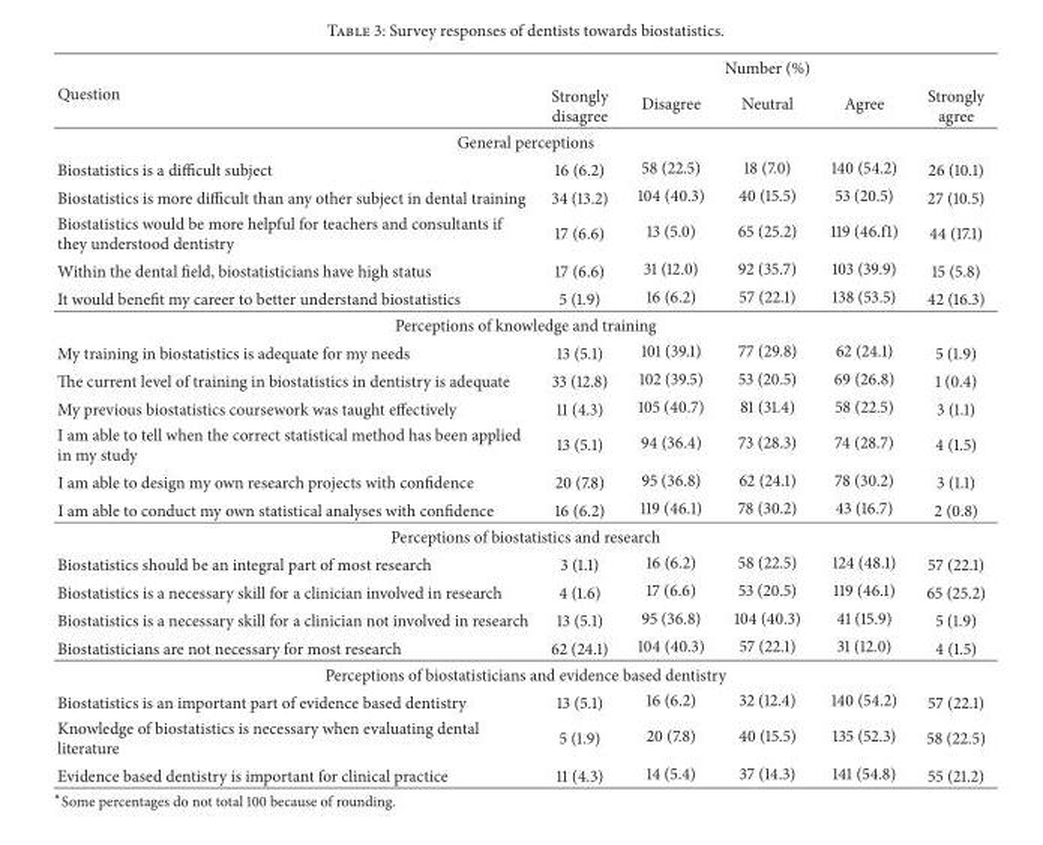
<table><thead><tr><td rowspan="2">Question</td><td rowspan="2">Strongly disagree</td><td rowspan="2">Disagree</td><td rowspan="2">Number (%) Neutral</td><td rowspan="2">Agree</td><td rowspan="2">Strongly agree</td></tr><tr></tr></thead><tbody><tr><td colspan="6">General perceptions</td></tr><tr><td>Biostatistics is a difficult subject</td><td>16 (6.2)</td><td>58 (22.5)</td><td>18 (7.0)</td><td>140 (54.2)</td><td>26 (10.1)</td></tr><tr><td>Biostatistics is more difficult than any other subject in dental training</td><td>34 (13.2)</td><td>104 (40.3)</td><td>40 (15.5)</td><td>53 (20.5)</td><td>27 (10.5)</td></tr><tr><td>Biostatistics would be more helpful for teachers and consultants if they understood dentistry</td><td>17 (6.6)</td><td>13 (5.0)</td><td>65 (25.2)</td><td>119 (46.f1)</td><td>44 (17.1)</td></tr><tr><td>Within the dental field, biostatisticians have high status</td><td>17 (6.6)</td><td>31 (12.0)</td><td>92 (35.7)</td><td>103 (39.9)</td><td>15 (5.8)</td></tr><tr><td>It would benefit my career to better understand biostatistics</td><td>5 (1.9)</td><td>16 (6.2)</td><td>57 (22.1)</td><td>138 (53.5)</td><td>42 (16.3)</td></tr><tr><td colspan="6">Perceptions of knowledge and training</td></tr><tr><td>My training in biostatistics is adequate for my needs</td><td>13 (5.1)</td><td>101 (39.1)</td><td>77 (29.8)</td><td>62 (24.1)</td><td>5 (1.9)</td></tr><tr><td>The current level of training in biostatistics in dentistry is adequate</td><td>33 (12.8)</td><td>102 (39.5)</td><td>53 (20.5)</td><td>69 (26.8)</td><td>1 (0.4)</td></tr><tr><td>My previous biostatistics coursework was taught effectively</td><td>11 (4.3)</td><td>105 (40.7)</td><td>81 (31.4)</td><td>58 (22.5)</td><td>3 (1.1)</td></tr><tr><td>I am able to tell when the correct statistical method has been applied in my study</td><td>13 (5.1)</td><td>94 (36.4)</td><td>73 (28.3)</td><td>74 (28.7)</td><td>4 (1.5)</td></tr><tr><td>I am able to design my own research projects with confidence</td><td>20 (7.8)</td><td>95 (36.8)</td><td>62 (24.1)</td><td>78 (30.2)</td><td>3 (1.1)</td></tr><tr><td>I am able to conduct my own statistical analyses with confidence</td><td>16 (6.2)</td><td>119 (46.1)</td><td>78 (30.2)</td><td>43 (16.7)</td><td>2 (0.8)</td></tr><tr><td colspan="6">Perceptions of biostatistics and research</td></tr><tr><td>Biostatistics should be an integral part of most research</td><td>3 (1.1)</td><td>16 (6.2)</td><td>58 (22.5)</td><td>124 (48.1)</td><td>57 (22.1)</td></tr><tr><td>Biostatistics is a necessary skill for a clinician involved in research</td><td>4 (1.6)</td><td>17 (6.6)</td><td>53 (20.5)</td><td>119 (46.1)</td><td>65 (25.2)</td></tr><tr><td>Biostatistics is a necessary skill for a clinician not involved in research</td><td>13 (5.1)</td><td>95 (36.8)</td><td>104 (40.3)</td><td>41 (15.9)</td><td>5 (1.9)</td></tr><tr><td>Biostatisticians are not necessary for most research</td><td>62 (24.1)</td><td>104 (40.3)</td><td>57 (22.1)</td><td>31 (12.0)</td><td>4 (1.5)</td></tr><tr><td colspan="6">Perceptions of biostatisticians and evidence based dentistry</td></tr><tr><td>Biostatistics is an important part of evidence based dentistry</td><td>13 (5.1)</td><td>16 (6.2)</td><td>32 (12.4)</td><td>140 (54.2)</td><td>57 (22.1)</td></tr><tr><td>Knowledge of biostatistics is necessary when evaluating dental literature</td><td>5 (1.9)</td><td>20 (7.8)</td><td>40 (15.5)</td><td>135 (52.3)</td><td>58 (22.5)</td></tr><tr><td>Evidence based dentistry is important for clinical practice</td><td>11 (4.3)</td><td>14 (5.4)</td><td>37 (14.3)</td><td>141 (54.8)</td><td>55 (21.2)</td></tr></tbody></table>